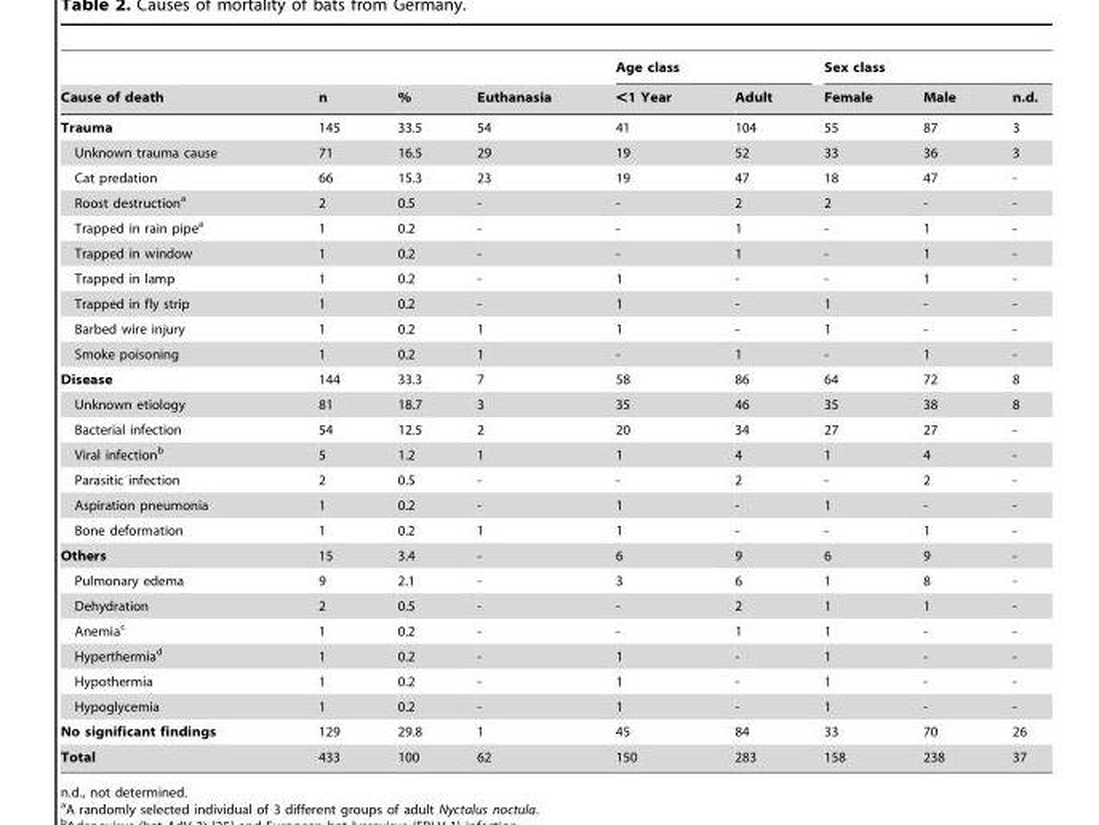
<table><thead><tr><td rowspan="2">Cause of death</td><td rowspan="2">n</td><td rowspan="2">%</td><td rowspan="2">Euthanasia</td><td colspan="2">Age class</td><td colspan="3">Sex class</td></tr><tr><td>&lt;1 Year</td><td>Adult</td><td>Female</td><td>Male</td><td>n.d.</td></tr></thead><tbody><tr><td>Trauma</td><td>145</td><td>33.5</td><td>54</td><td>41</td><td>104</td><td>55</td><td>87</td><td>3</td></tr><tr><td>Unknown trauma cause</td><td>71</td><td>16.5</td><td>29</td><td>19</td><td>52</td><td>33</td><td>36</td><td>3</td></tr><tr><td>Cat predation</td><td>66</td><td>15.3</td><td>23</td><td>19</td><td>47</td><td>18</td><td>47</td><td>-</td></tr><tr><td>Roost destruction<sup>a</sup></td><td>2</td><td>0.5</td><td>-</td><td>-</td><td>2</td><td>2</td><td>-</td><td>-</td></tr><tr><td>Trapped in rain pipe<sup>a</sup></td><td>1</td><td>0.2</td><td>-</td><td>-</td><td>1</td><td>-</td><td>1</td><td>-</td></tr><tr><td>Trapped in window</td><td>1</td><td>0.2</td><td>-</td><td>-</td><td>1</td><td>-</td><td>1</td><td>-</td></tr><tr><td>Trapped in lamp</td><td>1</td><td>0.2</td><td>-</td><td>1</td><td>-</td><td>-</td><td>1</td><td>-</td></tr><tr><td>Trapped in fly strip</td><td>1</td><td>0.2</td><td>-</td><td>1</td><td>-</td><td>1</td><td>-</td><td>-</td></tr><tr><td>Barbed wire injury</td><td>1</td><td>0.2</td><td>1</td><td>1</td><td>-</td><td>1</td><td>-</td><td>-</td></tr><tr><td>Smoke poisoning</td><td>1</td><td>0.2</td><td>1</td><td>-</td><td>1</td><td>-</td><td>1</td><td>-</td></tr><tr><td>Disease</td><td>144</td><td>33.3</td><td>7</td><td>58</td><td>86</td><td>64</td><td>72</td><td>8</td></tr><tr><td>Unknown etiology</td><td>81</td><td>18.7</td><td>3</td><td>35</td><td>46</td><td>35</td><td>38</td><td>8</td></tr><tr><td>Bacterial infection</td><td>54</td><td>12.5</td><td>2</td><td>20</td><td>34</td><td>27</td><td>27</td><td>-</td></tr><tr><td>Viral infection<sup>b</sup></td><td>5</td><td>1.2</td><td>1</td><td>1</td><td>4</td><td>1</td><td>4</td><td>-</td></tr><tr><td>Parasitic infection</td><td>2</td><td>0.5</td><td>-</td><td>-</td><td>2</td><td>-</td><td>2</td><td>-</td></tr><tr><td>Aspiration pneumonia</td><td>1</td><td>0.2</td><td>-</td><td>1</td><td>-</td><td>1</td><td>-</td><td>-</td></tr><tr><td>Bone deformation</td><td>1</td><td>0.2</td><td>1</td><td>1</td><td>-</td><td>-</td><td>1</td><td>-</td></tr><tr><td>Others</td><td>15</td><td>3.4</td><td>-</td><td>6</td><td>9</td><td>6</td><td>9</td><td>-</td></tr><tr><td>Pulmonary edema</td><td>9</td><td>2.1</td><td>-</td><td>3</td><td>6</td><td>1</td><td>8</td><td>-</td></tr><tr><td>Dehydration</td><td>2</td><td>0.5</td><td>-</td><td>-</td><td>2</td><td>1</td><td>1</td><td>-</td></tr><tr><td>Anemia<sup>c</sup></td><td>1</td><td>0.2</td><td>-</td><td>-</td><td>1</td><td>1</td><td>-</td><td>-</td></tr><tr><td>Hyperthermia<sup>d</sup></td><td>1</td><td>0.2</td><td>-</td><td>1</td><td>-</td><td>1</td><td>-</td><td>-</td></tr><tr><td>Hypothermia</td><td>1</td><td>0.2</td><td>-</td><td>1</td><td>-</td><td>1</td><td>-</td><td>-</td></tr><tr><td>Hypoglycemia</td><td>1</td><td>0.2</td><td>-</td><td>1</td><td>-</td><td>1</td><td>-</td><td>-</td></tr><tr><td>No significant findings</td><td>129</td><td>29.8</td><td>1</td><td>45</td><td>84</td><td>33</td><td>70</td><td>26</td></tr><tr><td>Total</td><td>433</td><td>100</td><td>62</td><td>150</td><td>283</td><td>158</td><td>238</td><td>37</td></tr></tbody></table>